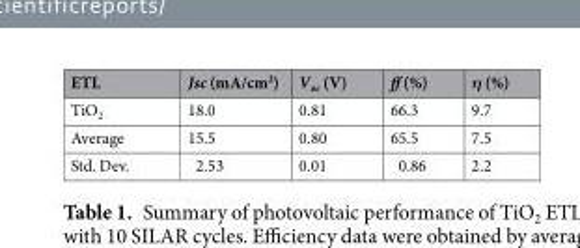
<table><thead><tr><td>ETL</td><td>Jsc (mA/cm<sup>2</sup>)</td><td>V<sub>oc</sub> (V)</td><td>ff (%)</td><td>η (%)</td></tr></thead><tbody><tr><td>TiO<sub>2</sub></td><td>18.0</td><td>0.81</td><td>66.3</td><td>9.7</td></tr><tr><td>Average</td><td>15.5</td><td>0.80</td><td>65.5</td><td>7.5</td></tr><tr><td>Std. Dev.</td><td>2.53</td><td>0.01</td><td>0.86</td><td>2.2</td></tr></tbody></table>